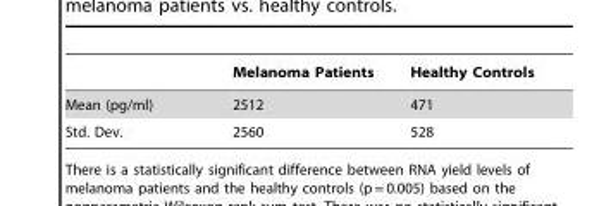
<table><thead><tr><td></td><td>Melanoma Patients</td><td>Healthy Controls</td></tr></thead><tbody><tr><td>Mean (pg/ml)</td><td>2512</td><td>471</td></tr><tr><td>Std. Dev.</td><td>2560</td><td>528</td></tr></tbody></table>